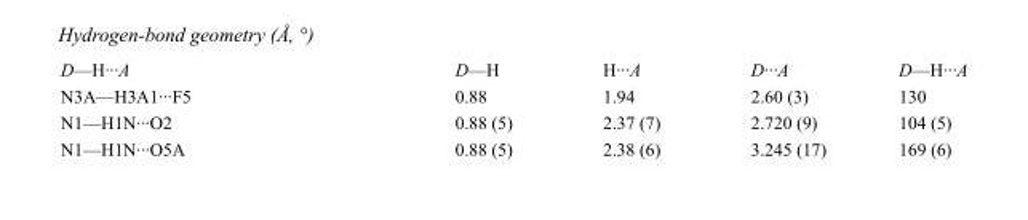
<table><tbody><tr><td>D—H···A</td><td>D—H</td><td>H···A</td><td>D···A</td><td>D—H···A</td></tr><tr><td>N3A—H3A1···F5</td><td>0.88</td><td>1.94</td><td>2.60 (3)</td><td>130</td></tr><tr><td>N1—H1N···O2</td><td>0.88 (5)</td><td>2.37 (7)</td><td>2.720 (9)</td><td>104 (5)</td></tr><tr><td>N1—H1N···O5A</td><td>0.88 (5)</td><td>2.38 (6)</td><td>3.245 (17)</td><td>169 (6)</td></tr></tbody></table>